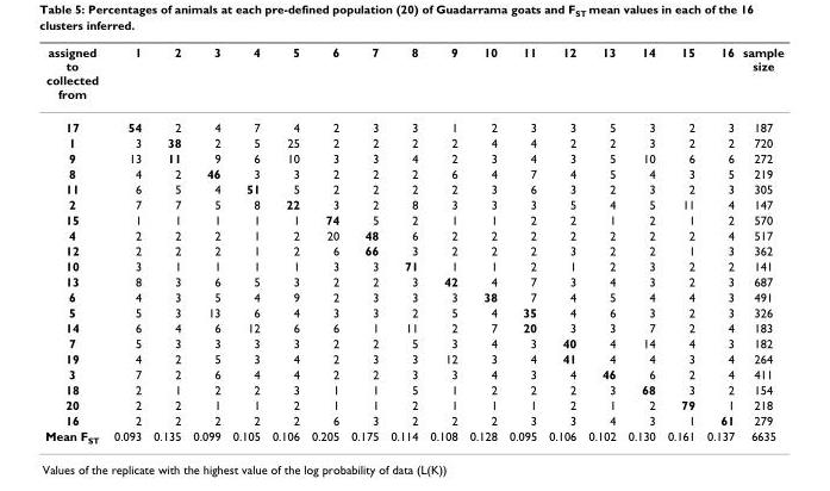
<table><thead><tr><td>assigned to collected from</td><td>1</td><td>2</td><td>3</td><td>4</td><td>5</td><td>6</td><td>7</td><td>8</td><td>9</td><td>10</td><td>11</td><td>12</td><td>13</td><td>14</td><td>15</td><td>16</td><td>sample size</td></tr></thead><tbody><tr><td>17</td><td>54</td><td>2</td><td>4</td><td>7</td><td>4</td><td>2</td><td>3</td><td>3</td><td>1</td><td>2</td><td>3</td><td>3</td><td>5</td><td>3</td><td>2</td><td>3</td><td>187</td></tr><tr><td>1</td><td>3</td><td>38</td><td>2</td><td>5</td><td>25</td><td>2</td><td>2</td><td>2</td><td>2</td><td>4</td><td>4</td><td>2</td><td>2</td><td>3</td><td>2</td><td>2</td><td>720</td></tr><tr><td>9</td><td>13</td><td>11</td><td>9</td><td>6</td><td>10</td><td>3</td><td>3</td><td>4</td><td>2</td><td>3</td><td>4</td><td>3</td><td>5</td><td>10</td><td>6</td><td>6</td><td>272</td></tr><tr><td>8</td><td>4</td><td>2</td><td>46</td><td>3</td><td>3</td><td>2</td><td>2</td><td>2</td><td>6</td><td>4</td><td>7</td><td>4</td><td>5</td><td>4</td><td>3</td><td>5</td><td>219</td></tr><tr><td>11</td><td>6</td><td>5</td><td>4</td><td>51</td><td>5</td><td>2</td><td>2</td><td>2</td><td>2</td><td>3</td><td>6</td><td>3</td><td>2</td><td>3</td><td>2</td><td>3</td><td>305</td></tr><tr><td>2</td><td>7</td><td>7</td><td>5</td><td>8</td><td>22</td><td>3</td><td>2</td><td>8</td><td>3</td><td>3</td><td>3</td><td>5</td><td>4</td><td>5</td><td>11</td><td>4</td><td>147</td></tr><tr><td>15</td><td>1</td><td>1</td><td>1</td><td>1</td><td>1</td><td>74</td><td>5</td><td>2</td><td>1</td><td>1</td><td>2</td><td>2</td><td>1</td><td>2</td><td>1</td><td>2</td><td>570</td></tr><tr><td>4</td><td>2</td><td>2</td><td>2</td><td>1</td><td>2</td><td>20</td><td>48</td><td>6</td><td>2</td><td>2</td><td>2</td><td>2</td><td>2</td><td>2</td><td>2</td><td>4</td><td>517</td></tr><tr><td>12</td><td>2</td><td>2</td><td>2</td><td>1</td><td>2</td><td>6</td><td>66</td><td>3</td><td>2</td><td>2</td><td>2</td><td>3</td><td>2</td><td>2</td><td>1</td><td>3</td><td>362</td></tr><tr><td>10</td><td>3</td><td>1</td><td>1</td><td>1</td><td>1</td><td>3</td><td>3</td><td>71</td><td>1</td><td>1</td><td>2</td><td>1</td><td>2</td><td>3</td><td>2</td><td>2</td><td>141</td></tr><tr><td>13</td><td>8</td><td>3</td><td>6</td><td>5</td><td>3</td><td>2</td><td>2</td><td>3</td><td>42</td><td>4</td><td>7</td><td>3</td><td>4</td><td>3</td><td>2</td><td>3</td><td>687</td></tr><tr><td>6</td><td>4</td><td>3</td><td>5</td><td>4</td><td>9</td><td>2</td><td>3</td><td>3</td><td>3</td><td>38</td><td>7</td><td>4</td><td>5</td><td>4</td><td>4</td><td>3</td><td>491</td></tr><tr><td>5</td><td>5</td><td>3</td><td>13</td><td>6</td><td>4</td><td>3</td><td>3</td><td>2</td><td>5</td><td>4</td><td>35</td><td>4</td><td>6</td><td>3</td><td>2</td><td>3</td><td>326</td></tr><tr><td>14</td><td>6</td><td>4</td><td>6</td><td>12</td><td>6</td><td>6</td><td>1</td><td>11</td><td>2</td><td>7</td><td>20</td><td>3</td><td>3</td><td>7</td><td>2</td><td>4</td><td>183</td></tr><tr><td>7</td><td>5</td><td>3</td><td>3</td><td>3</td><td>3</td><td>2</td><td>2</td><td>5</td><td>3</td><td>4</td><td>3</td><td>40</td><td>4</td><td>14</td><td>4</td><td>3</td><td>182</td></tr><tr><td>19</td><td>4</td><td>2</td><td>5</td><td>3</td><td>4</td><td>2</td><td>3</td><td>3</td><td>12</td><td>3</td><td>4</td><td>41</td><td>4</td><td>4</td><td>3</td><td>4</td><td>264</td></tr><tr><td>3</td><td>7</td><td>2</td><td>6</td><td>4</td><td>4</td><td>2</td><td>2</td><td>3</td><td>3</td><td>4</td><td>3</td><td>4</td><td>46</td><td>6</td><td>2</td><td>4</td><td>411</td></tr><tr><td>18</td><td>2</td><td>1</td><td>2</td><td>2</td><td>3</td><td>1</td><td>1</td><td>5</td><td>1</td><td>2</td><td>2</td><td>2</td><td>3</td><td>68</td><td>3</td><td>2</td><td>154</td></tr><tr><td>20</td><td>2</td><td>2</td><td>1</td><td>1</td><td>2</td><td>1</td><td>1</td><td>2</td><td>1</td><td>1</td><td>1</td><td>2</td><td>1</td><td>2</td><td>79</td><td>1</td><td>218</td></tr><tr><td>16</td><td>2</td><td>2</td><td>2</td><td>2</td><td>2</td><td>6</td><td>3</td><td>2</td><td>2</td><td>2</td><td>3</td><td>3</td><td>4</td><td>3</td><td>1</td><td>61</td><td>279</td></tr><tr><td>Mean F<sub>ST</sub></td><td>0.093</td><td>0.135</td><td>0.099</td><td>0.105</td><td>0.106</td><td>0.205</td><td>0.175</td><td>0.114</td><td>0.108</td><td>0.128</td><td>0.095</td><td>0.106</td><td>0.102</td><td>0.130</td><td>0.161</td><td>0.137</td><td>6635</td></tr></tbody></table>